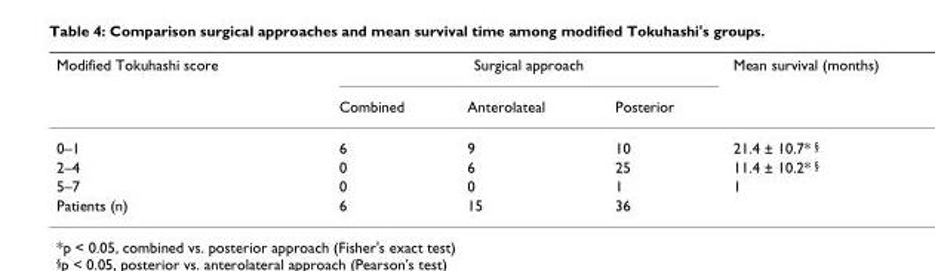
<table><thead><tr><td rowspan="2">Modified Tokuhashi score</td><td colspan="3">Surgical approach</td><td rowspan="2">Mean survival (months)</td></tr><tr><td>Combined</td><td>Anterolateal</td><td>Posterior</td></tr></thead><tbody><tr><td>0–1</td><td>6</td><td>9</td><td>10</td><td>21.4 ± 10.7* <sup>§</sup></td></tr><tr><td>2–4</td><td>0</td><td>6</td><td>25</td><td>11.4 ± 10.2* <sup>§</sup></td></tr><tr><td>5–7</td><td>0</td><td>0</td><td>1</td><td>1</td></tr><tr><td>Patients (n)</td><td>6</td><td>15</td><td>36</td><td></td></tr></tbody></table>